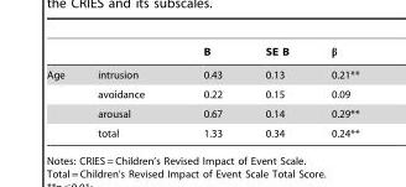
<table><thead><tr><td></td><td></td><td>B</td><td>SE B</td><td>β</td></tr></thead><tbody><tr><td rowspan="4">Age</td><td>intrusion</td><td>0.43</td><td>0.13</td><td>0.21**</td></tr><tr><td>avoidance</td><td>0.22</td><td>0.15</td><td>0.09</td></tr><tr><td>arousal</td><td>0.67</td><td>0.14</td><td>0.29**</td></tr><tr><td>total</td><td>1.33</td><td>0.34</td><td>0.24**</td></tr></tbody></table>